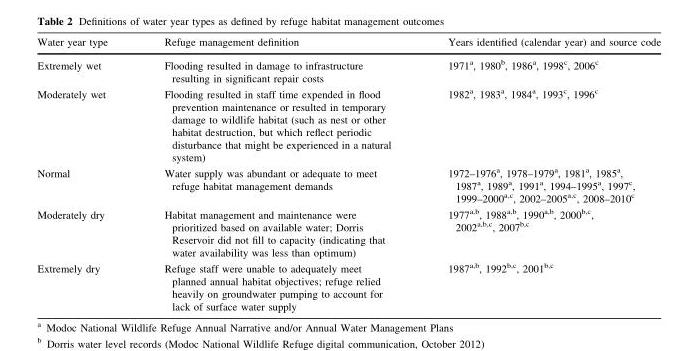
<table><thead><tr><td>Water year type</td><td>Refuge management definition</td><td>Years identified (calendar year) and source code</td></tr></thead><tbody><tr><td>Extremely wet</td><td>Flooding resulted in damage to infrastructure resulting in significant repair costs</td><td>1971<sup>a</sup>, 1980<sup>b</sup>, 1986<sup>a</sup>, 1998<sup>c</sup>, 2006<sup>c</sup></td></tr><tr><td>Moderately wet</td><td>Flooding resulted in staff time expended in flood prevention maintenance or resulted in temporary damage to wildlife habitat (such as nest or other habitat destruction, but which reflect periodic disturbance that might be experienced in a natural system)</td><td>1982<sup>a</sup>, 1983<sup>a</sup>, 1984<sup>a</sup>, 1993<sup>c</sup>, 1996<sup>c</sup></td></tr><tr><td>Normal</td><td>Water supply was abundant or adequate to meet refuge habitat management demands</td><td>1972–1976<sup>a</sup>, 1978–1979<sup>a</sup>, 1981<sup>a</sup>, 1985<sup>a</sup>, 1987<sup>a</sup>, 1989<sup>a</sup>, 1991<sup>a</sup>, 1994–1995<sup>a</sup>, 1997<sup>c</sup>, 1999–2000<sup>a,c</sup>, 2002–2005<sup>a,c</sup>, 2008–2010<sup>c</sup></td></tr><tr><td>Moderately dry</td><td>Habitat management and maintenance were prioritized based on available water; Dorris Reservoir did not fill to capacity (indicating that water availability was less than optimum)</td><td>1977<sup>a,b</sup>, 1988<sup>a,b</sup>, 1990<sup>a,b</sup>, 2000<sup>b,c</sup>, 2002<sup>a,b,c</sup>, 2007<sup>b,c</sup></td></tr><tr><td>Extremely dry</td><td>Refuge staff were unable to adequately meet planned annual habitat objectives; refuge relied heavily on groundwater pumping to account for lack of surface water supply</td><td>1987<sup>a,b</sup>, 1992<sup>b,c</sup>, 2001<sup>b,c</sup></td></tr></tbody></table>